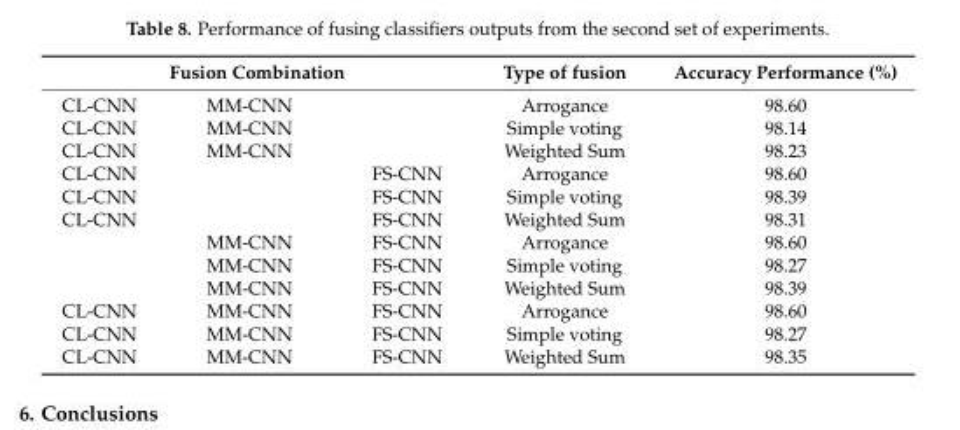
<table><thead><tr><td colspan="3">Fusion Combination</td><td rowspan="2">Type of fusion Arrogance</td><td rowspan="2">Accuracy Performance (%) 98.60</td></tr><tr><td>CL-CNN</td><td>MM-CNN</td><td></td></tr></thead><tbody><tr><td>CL-CNN</td><td>MM-CNN</td><td></td><td>Simple voting</td><td>98.14</td></tr><tr><td>CL-CNN</td><td>MM-CNN</td><td></td><td>Weighted Sum</td><td>98.23</td></tr><tr><td>CL-CNN</td><td></td><td>FS-CNN</td><td>Arrogance</td><td>98.60</td></tr><tr><td>CL-CNN</td><td></td><td>FS-CNN</td><td>Simple voting</td><td>98.39</td></tr><tr><td rowspan="4">CL-CNN</td><td></td><td>FS-CNN</td><td>Weighted Sum</td><td>98.31</td></tr><tr><td>MM-CNN</td><td>FS-CNN</td><td>Arrogance</td><td>98.60</td></tr><tr><td>MM-CNN</td><td>FS-CNN</td><td>Simple voting</td><td>98.27</td></tr><tr><td>MM-CNN</td><td>FS-CNN</td><td>Weighted Sum</td><td>98.39</td></tr><tr><td>CL-CNN</td><td>MM-CNN</td><td>FS-CNN</td><td>Arrogance</td><td>98.60</td></tr><tr><td>CL-CNN</td><td>MM-CNN</td><td>FS-CNN</td><td>Simple voting</td><td>98.27</td></tr><tr><td>CL-CNN</td><td>MM-CNN</td><td>FS-CNN</td><td>Weighted Sum</td><td>98.35</td></tr></tbody></table>